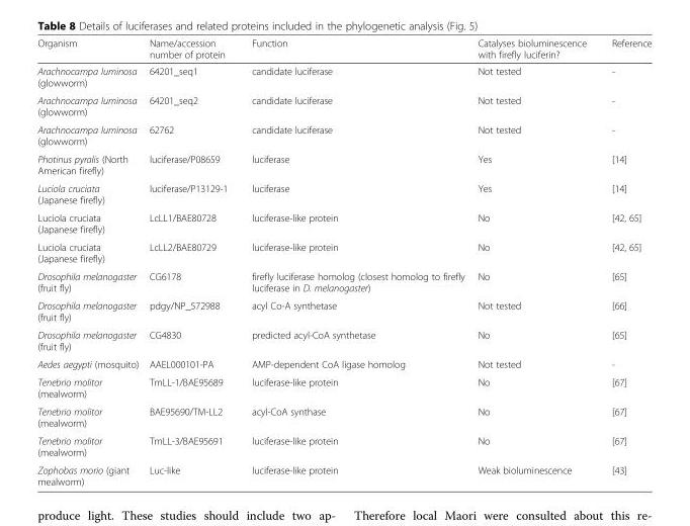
<table><thead><tr><td>Organism</td><td>Name/accession number of protein</td><td>Function</td><td>Catalyses bioluminescence with firefly luciferin?</td><td>Reference</td></tr></thead><tbody><tr><td>Arachnocampa luminosa (glowworm)</td><td>64201_seq1</td><td>candidate luciferase</td><td>Not tested</td><td>-</td></tr><tr><td>Arachnocampa luminosa (glowworm)</td><td>64201_seq2</td><td>candidate luciferase</td><td>Not tested</td><td>-</td></tr><tr><td>Arachnocampa luminosa (glowworm)</td><td>62762</td><td>candidate luciferase</td><td>Not tested</td><td>-</td></tr><tr><td>Photinus pyralis (North American firefly)</td><td>luciferase/P08659</td><td>luciferase</td><td>Yes</td><td>[14]</td></tr><tr><td>Luciola cruciata (Japanese firefly)</td><td>luciferase/P13129-1</td><td>luciferase</td><td>Yes</td><td>[14]</td></tr><tr><td>Luciola cruciata (Japanese firefly)</td><td>LcLL1/BAE80728</td><td>luciferase-like protein</td><td>No</td><td>[42, 65]</td></tr><tr><td>Luciola cruciata (Japanese firefly)</td><td>LcLL2/BAE80729</td><td>luciferase-like protein</td><td>No</td><td>[42, 65]</td></tr><tr><td>Drosophila melanogaster (fruit fly)</td><td>CG6178</td><td>firefly luciferase homolog (closest homolog to firefly luciferase in D. melanogaster)</td><td>No</td><td>[65]</td></tr><tr><td>Drosophila melanogaster (fruit fly)</td><td>pdgy/NP_572988</td><td>acyl Co-A synthetase</td><td>Not tested</td><td>[66]</td></tr><tr><td>Drosophila melanogaster (fruit fly)</td><td>CG4830</td><td>predicted acyl-CoA synthetase</td><td>No</td><td>[65]</td></tr><tr><td>Aedes aegypti (mosquito)</td><td>AAEL000101-PA</td><td>AMP-dependent CoA ligase homolog</td><td>Not tested</td><td>-</td></tr><tr><td>Tenebrio molitor (mealworm)</td><td>TmLL-1/BAE95689</td><td>luciferase-like protein</td><td>No</td><td>[67]</td></tr><tr><td>Tenebrio molitor (mealworm)</td><td>BAE95690/TM-LL2</td><td>acyl-CoA synthase</td><td>No</td><td>[67]</td></tr><tr><td>Tenebrio molitor (mealworm)</td><td>TmLL-3/BAE95691</td><td>luciferase-like protein</td><td>No</td><td>[67]</td></tr><tr><td>Zophobas morio (giant mealworm)</td><td>Luc-like</td><td>luciferase-like protein</td><td>Weak bioluminescence</td><td>[43]</td></tr></tbody></table>